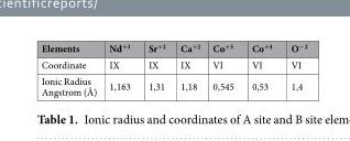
<table><thead><tr><td>Elements</td><td>Nd<sup>+3</sup></td><td>Sr<sup>+2</sup></td><td>Ca<sup>+2</sup></td><td>Co<sup>+3</sup></td><td>Co<sup>+4</sup></td><td>O<sup>−2</sup></td></tr></thead><tbody><tr><td>Coordinate</td><td>IX</td><td>IX</td><td>IX</td><td>VI</td><td>VI</td><td>VI</td></tr><tr><td>Ionic Radius Angstrom (Å)</td><td>1,163</td><td>1,31</td><td>1,18</td><td>0,545</td><td>0,53</td><td>1,4</td></tr></tbody></table>